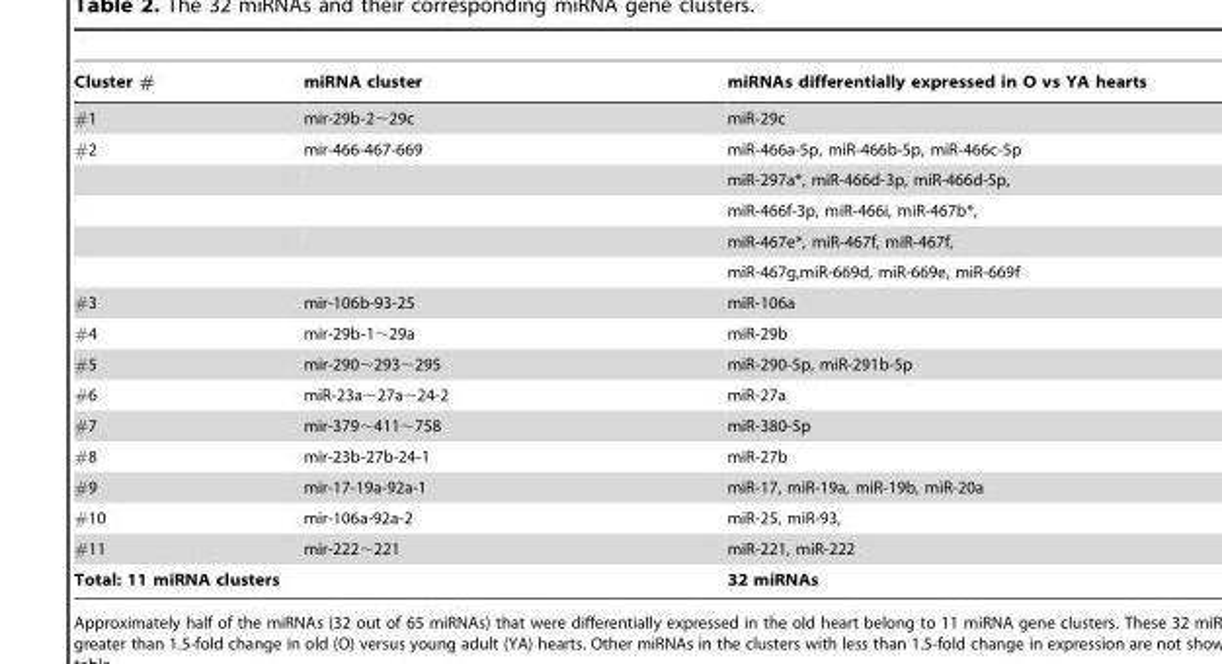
<table><thead><tr><td>Cluster #</td><td>miRNA cluster</td><td>miRNAs differentially expressed in O vs YA hearts</td></tr></thead><tbody><tr><td>#1</td><td>mir-29b-2∼29c</td><td>miR-29c</td></tr><tr><td rowspan="5">#2</td><td>mir-466-467-669</td><td>miR-466a-5p, miR-466b-5p, miR-466c-5p</td></tr><tr><td></td><td>miR-297a*, miR-466d-3p, miR-466d-5p,</td></tr><tr><td></td><td>miR-466f-3p, miR-466i, miR-467b*,</td></tr><tr><td></td><td>miR-467e*, miR-467f, miR-467f,</td></tr><tr><td></td><td>miR-467g,miR-669d, miR-669e, miR-669f</td></tr><tr><td>#3</td><td>mir-106b-93-25</td><td>miR-106a</td></tr><tr><td>#4</td><td>mir-29b-1∼29a</td><td>miR-29b</td></tr><tr><td>#5</td><td>mir-290∼293∼295</td><td>miR-290-5p, miR-291b-5p</td></tr><tr><td>#6</td><td>miR-23a∼27a∼24-2</td><td>miR-27a</td></tr><tr><td>#7</td><td>mir-379∼411∼758</td><td>miR-380-5p</td></tr><tr><td>#8</td><td>mir-23b-27b-24-1</td><td>miR-27b</td></tr><tr><td>#9</td><td>mir-17-19a-92a-1</td><td>miR-17, miR-19a, miR-19b, miR-20a</td></tr><tr><td>#10</td><td>mir-106a-92a-2</td><td>miR-25, miR-93,</td></tr><tr><td>#11</td><td>mir-222∼221</td><td>miR-221, miR-222</td></tr><tr><td colspan="2">Total: 11 miRNA clusters</td><td>32 miRNAs</td></tr></tbody></table>